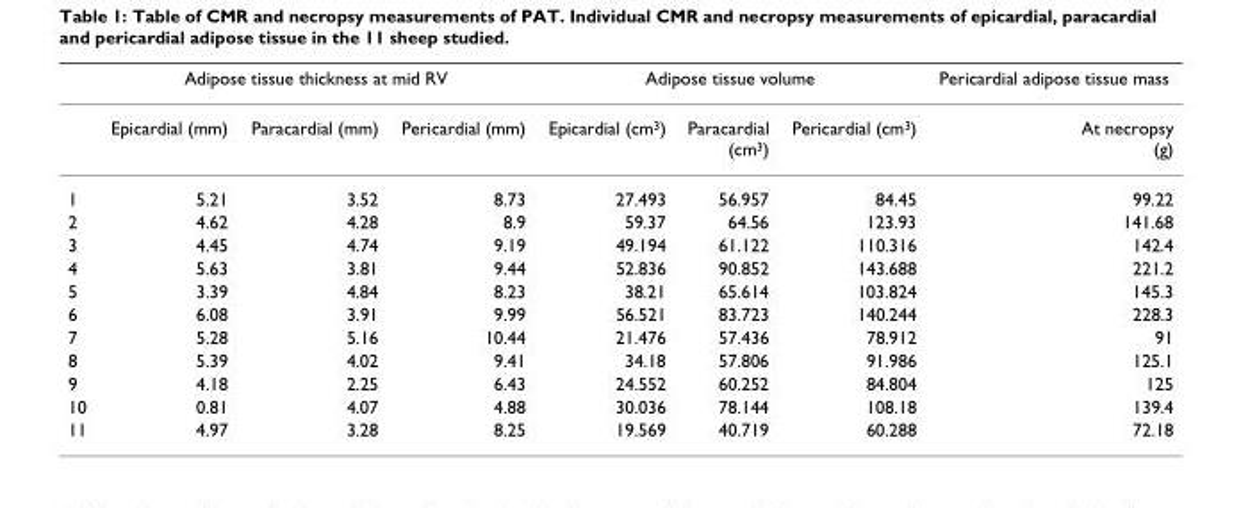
<table><thead><tr><td rowspan="2"></td><td colspan="3">Adipose tissue thickness at mid RV</td><td colspan="3">Adipose tissue volume</td><td rowspan="2">Pericardial adipose tissue mass At necropsy (g)</td></tr><tr><td>Epicardial (mm)</td><td>Paracardial (mm)</td><td>Pericardial (mm)</td><td>Epicardial (cm<sup>3</sup>)</td><td>Paracardial (cm<sup>3</sup>)</td><td>Pericardial (cm<sup>3</sup>)</td></tr></thead><tbody><tr><td>1</td><td>5.21</td><td>3.52</td><td>8.73</td><td>27.493</td><td>56.957</td><td>84.45</td><td>99.22</td></tr><tr><td>2</td><td>4.62</td><td>4.28</td><td>8.9</td><td>59.37</td><td>64.56</td><td>123.93</td><td>141.68</td></tr><tr><td>3</td><td>4.45</td><td>4.74</td><td>9.19</td><td>49.194</td><td>61.122</td><td>110.316</td><td>142.4</td></tr><tr><td>4</td><td>5.63</td><td>3.81</td><td>9.44</td><td>52.836</td><td>90.852</td><td>143.688</td><td>221.2</td></tr><tr><td>5</td><td>3.39</td><td>4.84</td><td>8.23</td><td>38.21</td><td>65.614</td><td>103.824</td><td>145.3</td></tr><tr><td>6</td><td>6.08</td><td>3.91</td><td>9.99</td><td>56.521</td><td>83.723</td><td>140.244</td><td>228.3</td></tr><tr><td>7</td><td>5.28</td><td>5.16</td><td>10.44</td><td>21.476</td><td>57.436</td><td>78.912</td><td>91</td></tr><tr><td>8</td><td>5.39</td><td>4.02</td><td>9.41</td><td>34.18</td><td>57.806</td><td>91.986</td><td>125.1</td></tr><tr><td>9</td><td>4.18</td><td>2.25</td><td>6.43</td><td>24.552</td><td>60.252</td><td>84.804</td><td>125</td></tr><tr><td>10</td><td>0.81</td><td>4.07</td><td>4.88</td><td>30.036</td><td>78.144</td><td>108.18</td><td>139.4</td></tr><tr><td>11</td><td>4.97</td><td>3.28</td><td>8.25</td><td>19.569</td><td>40.719</td><td>60.288</td><td>72.18</td></tr></tbody></table>